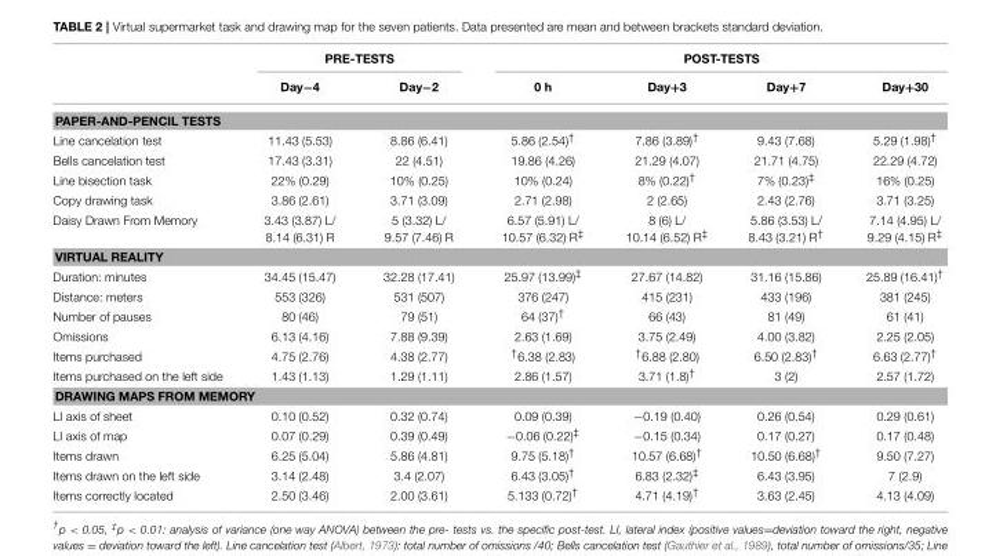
<table><thead><tr><td rowspan="2"></td><td colspan="2">PRE-TESTS</td><td colspan="4">POST-TESTS</td></tr><tr><td>Day−4</td><td>Day−2</td><td>0 h</td><td>Day+3</td><td>Day+7</td><td>Day+30</td></tr></thead><tbody><tr><td colspan="7">PAPER-AND-PENCIL TESTS</td></tr><tr><td>Line cancelation test</td><td>11.43 (5.53)</td><td>8.86 (6.41)</td><td>5.86 (2.54)<sup>†</sup></td><td>7.86 (3.89)<sup>†</sup></td><td>9.43 (7.68)</td><td>5.29 (1.98)<sup>†</sup></td></tr><tr><td>Bells cancelation test</td><td>17.43 (3.31)</td><td>22 (4.51)</td><td>19.86 (4.26)</td><td>21.29 (4.07)</td><td>21.71 (4.75)</td><td>22.29 (4.72)</td></tr><tr><td>Line bisection task</td><td>22% (0.29)</td><td>10% (0.25)</td><td>10% (0.24)</td><td>8% (0.22)<sup>†</sup></td><td>7% (0.23)<sup>‡</sup></td><td>16% (0.25)</td></tr><tr><td>Copy drawing task</td><td>3.86 (2.61)</td><td>3.71 (3.09)</td><td>2.71 (2.98)</td><td>2 (2.65)</td><td>2.43 (2.76)</td><td>3.71 (3.25)</td></tr><tr><td>Daisy Drawn From Memory</td><td>3.43 (3.87) L/ 8.14 (6.31) R</td><td>5 (3.32) L/ 9.57 (7.46) R</td><td>6.57 (5.91) L/ 10.57 (6.32) R<sup>‡</sup></td><td>8 (6) L/ 10.14 (6.52) R<sup>‡</sup></td><td>5.86 (3.53) L/ 8.43 (3.21) R<sup>†</sup></td><td>7.14 (4.95) L/ 9.29 (4.15) R<sup>‡</sup></td></tr><tr><td colspan="7">VIRTUAL REALITY</td></tr><tr><td>Duration: minutes</td><td>34.45 (15.47)</td><td>32.28 (17.41)</td><td>25.97 (13.99)<sup>‡</sup></td><td>27.67 (14.82)</td><td>31.16 (15.86)</td><td>25.89 (16.41)<sup>†</sup></td></tr><tr><td>Distance: meters</td><td>553 (326)</td><td>531 (507)</td><td>376 (247)</td><td>415 (231)</td><td>433 (196)</td><td>381 (245)</td></tr><tr><td>Number of pauses</td><td>80 (46)</td><td>79 (51)</td><td>64 (37)<sup>†</sup></td><td>66 (43)</td><td>81 (49)</td><td>61 (41)</td></tr><tr><td>Omissions</td><td>6.13 (4.16)</td><td>7.88 (9.39)</td><td>2.63 (1.69)</td><td>3.75 (2.49)</td><td>4.00 (3.82)</td><td>2.25 (2.05)</td></tr><tr><td>Items purchased</td><td>4.75 (2.76)</td><td>4.38 (2.77)</td><td><sup>†</sup>6.38 (2.83)</td><td><sup>†</sup>6.88 (2.80)</td><td>6.50 (2.83)<sup>†</sup></td><td>6.63 (2.77)<sup>†</sup></td></tr><tr><td>Items purchased on the left side</td><td>1.43 (1.13)</td><td>1.29 (1.11)</td><td>2.86 (1.57)</td><td>3.71 (1.8)<sup>†</sup></td><td>3 (2)</td><td>2.57 (1.72)</td></tr><tr><td colspan="7">DRAWING MAPS FROM MEMORY</td></tr><tr><td>LI axis of sheet</td><td>0.10 (0.52)</td><td>0.32 (0.74)</td><td>0.09 (0.39)</td><td>−0.19 (0.40)</td><td>0.26 (0.54)</td><td>0.29 (0.61)</td></tr><tr><td>LI axis of map</td><td>0.07 (0.29)</td><td>0.39 (0.49)</td><td>−0.06 (0.22)<sup>‡</sup></td><td>−0.15 (0.34)</td><td>0.17 (0.27)</td><td>0.17 (0.48)</td></tr><tr><td>Items drawn</td><td>6.25 (5.04)</td><td>5.86 (4.81)</td><td>9.75 (5.18)<sup>†</sup></td><td>10.57 (6.68)<sup>†</sup></td><td>10.50 (6.68)<sup>†</sup></td><td>9.50 (7.27)</td></tr><tr><td>Items drawn on the left side</td><td>3.14 (2.48)</td><td>3.4 (2.07)</td><td>6.43 (3.05)<sup>†</sup></td><td>6.83 (2.32)<sup>‡</sup></td><td>6.43 (3.95)</td><td>7 (2.9)</td></tr><tr><td>Items correctly located</td><td>2.50 (3.46)</td><td>2.00 (3.61)</td><td>5.133 (0.72)<sup>†</sup></td><td>4.71 (4.19)<sup>†</sup></td><td>3.63 (2.45)</td><td>4.13 (4.09)</td></tr></tbody></table>